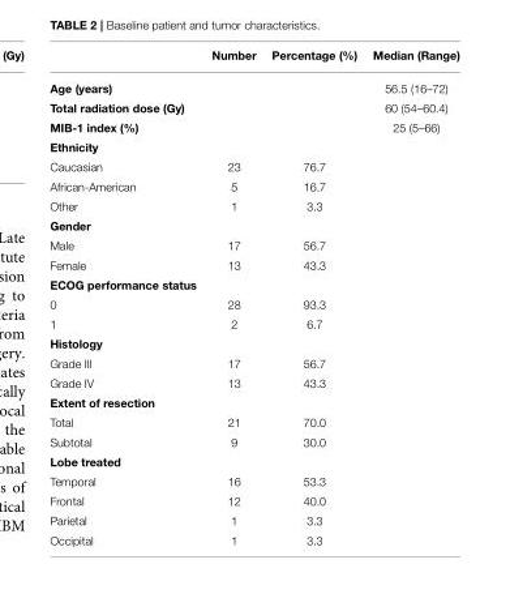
<table><thead><tr><td></td><td>Number</td><td>Percentage (%)</td><td>Median (Range)</td></tr></thead><tbody><tr><td>Age (years)</td><td></td><td></td><td>56.5 (16–72)</td></tr><tr><td>Total radiation dose (Gy)</td><td></td><td></td><td>60 (54–60.4)</td></tr><tr><td>MIB-1 index (%)</td><td></td><td></td><td>25 (5–66)</td></tr><tr><td colspan="4">Ethnicity</td></tr><tr><td>Caucasian</td><td>23</td><td>76.7</td><td></td></tr><tr><td>African-American</td><td>5</td><td>16.7</td><td></td></tr><tr><td>Other</td><td>1</td><td>3.3</td><td></td></tr><tr><td colspan="4">Gender</td></tr><tr><td>Male</td><td>17</td><td>56.7</td><td></td></tr><tr><td>Female</td><td>13</td><td>43.3</td><td></td></tr><tr><td colspan="4">ECOG performance status</td></tr><tr><td>0</td><td>28</td><td>93.3</td><td></td></tr><tr><td>1</td><td>2</td><td>6.7</td><td></td></tr><tr><td colspan="4">Histology</td></tr><tr><td>Grade III</td><td>17</td><td>56.7</td><td></td></tr><tr><td>Grade IV</td><td>13</td><td>43.3</td><td></td></tr><tr><td colspan="4">Extent of resection</td></tr><tr><td>Total</td><td>21</td><td>70.0</td><td></td></tr><tr><td>Subtotal</td><td>9</td><td>30.0</td><td></td></tr><tr><td colspan="4">Lobe treated</td></tr><tr><td>Temporal</td><td>16</td><td>53.3</td><td></td></tr><tr><td>Frontal</td><td>12</td><td>40.0</td><td></td></tr><tr><td>Parietal</td><td>1</td><td>3.3</td><td></td></tr><tr><td>Occipital</td><td>1</td><td>3.3</td><td></td></tr></tbody></table>